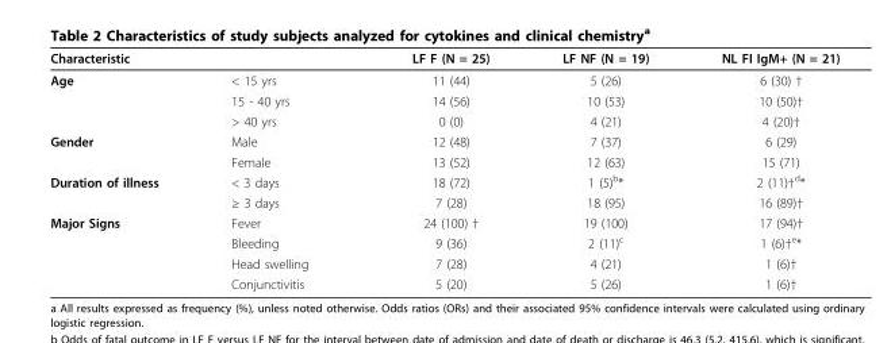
<table><thead><tr><td colspan="2">Characteristic</td><td rowspan="2">LF F (N = 25) 11 (44)</td><td rowspan="2">LF NF (N = 19) 5 (26)</td><td rowspan="2">NL FI IgM+ (N = 21) 6 (30) †</td></tr><tr><td>Age</td><td>&lt; 15 yrs</td></tr></thead><tbody><tr><td></td><td>15 - 40 yrs</td><td>14 (56)</td><td>10 (53)</td><td>10 (50)†</td></tr><tr><td></td><td>&gt; 40 yrs</td><td>0 (0)</td><td>4 (21)</td><td>4 (20)†</td></tr><tr><td rowspan="2">Gender</td><td>Male</td><td>12 (48)</td><td>7 (37)</td><td>6 (29)</td></tr><tr><td>Female</td><td>13 (52)</td><td>12 (63)</td><td>15 (71)</td></tr><tr><td rowspan="2">Duration of illness</td><td>&lt; 3 days</td><td>18 (72)</td><td>1 (5)<sup>b</sup>*</td><td>2 (11)†<sup>d</sup>*</td></tr><tr><td>≥ 3 days</td><td>7 (28)</td><td>18 (95)</td><td>16 (89)†</td></tr><tr><td rowspan="4">Major Signs</td><td>Fever</td><td>24 (100) †</td><td>19 (100)</td><td>17 (94)†</td></tr><tr><td>Bleeding</td><td>9 (36)</td><td>2 (11)<sup>c</sup></td><td>1 (6)†<sup>e</sup>*</td></tr><tr><td>Head swelling</td><td>7 (28)</td><td>4 (21)</td><td>1 (6)†</td></tr><tr><td>Conjunctivitis</td><td>5 (20)</td><td>5 (26)</td><td>1 (6)†</td></tr></tbody></table>